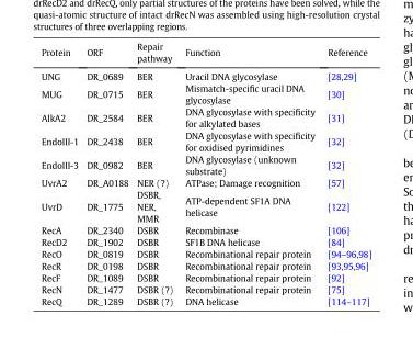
<table><thead><tr><td>Protein</td><td>ORF</td><td>Repair pathway</td><td>Function</td><td>Reference</td></tr></thead><tbody><tr><td>UNG</td><td>DR_0689</td><td>BER</td><td>Uracil DNA glycosylase</td><td>[28,29]</td></tr><tr><td>MUG</td><td>DR_0715</td><td>BER</td><td>Mismatch-specific uracil DNA glycosylase</td><td>[30]</td></tr><tr><td>AlkA2</td><td>DR_2584</td><td>BER</td><td>DNA glycosylase with specificity for alkylated bases</td><td>[31]</td></tr><tr><td>EndoIII-1</td><td>DR_2438</td><td>BER</td><td>DNA glycosylase with specificity for oxidised pyrimidines</td><td>[32]</td></tr><tr><td>EndoIII-3</td><td>DR_0982</td><td>BER</td><td>DNA glycosylase (unknown substrate)</td><td>[32]</td></tr><tr><td>UvrA2</td><td>DR_A0188</td><td>NER (?)</td><td>ATPase; Damage recognition</td><td>[57]</td></tr><tr><td>UvrD</td><td>DR_1775</td><td>DSBR, NER, MMR</td><td>ATP-dependent SF1A DNA helicase</td><td>[122]</td></tr><tr><td>RecA</td><td>DR_2340</td><td>DSBR</td><td>Recombinase</td><td>[106]</td></tr><tr><td>RecD2</td><td>DR_1902</td><td>DSBR</td><td>SF1B DNA helicase</td><td>[84]</td></tr><tr><td>RecO</td><td>DR_0819</td><td>DSBR</td><td>Recombinational repair protein</td><td>[94–96,98]</td></tr><tr><td>RecR</td><td>DR_0198</td><td>DSBR</td><td>Recombinational repair protein</td><td>[93,95,96]</td></tr><tr><td>RecF</td><td>DR_1089</td><td>DSBR</td><td>Recombinational repair protein</td><td>[92]</td></tr><tr><td>RecN</td><td>DR_1477</td><td>DSBR (?)</td><td>Recombinational repair protein</td><td>[75]</td></tr><tr><td>RecQ</td><td>DR_1289</td><td>DSBR (?)</td><td>DNA helicase</td><td>[114–117]</td></tr></tbody></table>